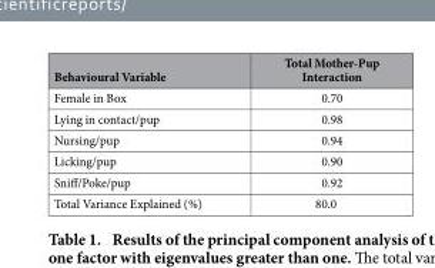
<table><thead><tr><td>Behavioural Variable</td><td>Total Mother-Pup Interaction</td></tr></thead><tbody><tr><td>Female in Box</td><td>0.70</td></tr><tr><td>Lying in contact/pup</td><td>0.98</td></tr><tr><td>Nursing/pup</td><td>0.94</td></tr><tr><td>Licking/pup</td><td>0.90</td></tr><tr><td>Sniff/Poke/pup</td><td>0.92</td></tr><tr><td>Total Variance Explained (%)</td><td>80.0</td></tr></tbody></table>